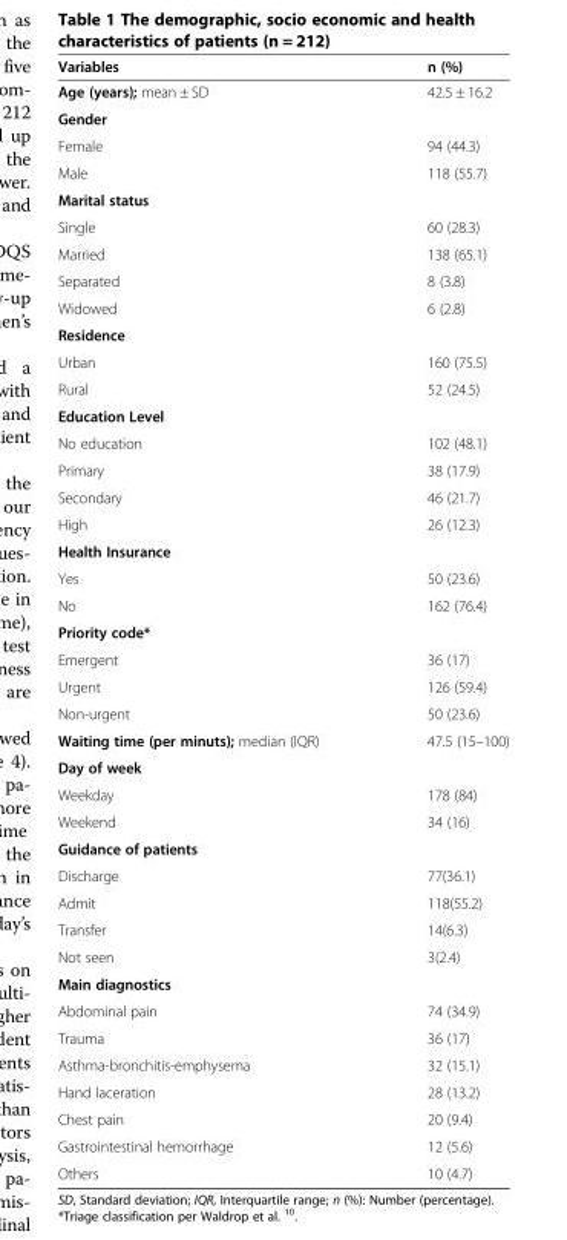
<table><thead><tr><td>Variables</td><td>n (%)</td></tr></thead><tbody><tr><td>Age (years); mean ± SD</td><td>42.5 ± 16.2</td></tr><tr><td colspan="2">Gender</td></tr><tr><td>Female</td><td>94 (44.3)</td></tr><tr><td>Male</td><td>118 (55.7)</td></tr><tr><td colspan="2">Marital status</td></tr><tr><td>Single</td><td>60 (28.3)</td></tr><tr><td>Married</td><td>138 (65.1)</td></tr><tr><td>Separated</td><td>8 (3.8)</td></tr><tr><td>Widowed</td><td>6 (2.8)</td></tr><tr><td colspan="2">Residence</td></tr><tr><td>Urban</td><td>160 (75.5)</td></tr><tr><td>Rural</td><td>52 (24.5)</td></tr><tr><td colspan="2">Education Level</td></tr><tr><td>No education</td><td>102 (48.1)</td></tr><tr><td>Primary</td><td>38 (17.9)</td></tr><tr><td>Secondary</td><td>46 (21.7)</td></tr><tr><td>High</td><td>26 (12.3)</td></tr><tr><td colspan="2">Health Insurance</td></tr><tr><td>Yes</td><td>50 (23.6)</td></tr><tr><td>No</td><td>162 (76.4)</td></tr><tr><td colspan="2">Priority code*</td></tr><tr><td>Emergent</td><td>36 (17)</td></tr><tr><td>Urgent</td><td>126 (59.4)</td></tr><tr><td>Non-urgent</td><td>50 (23.6)</td></tr><tr><td>Waiting time (per minuts); median (IQR)</td><td>47.5 (15–100)</td></tr><tr><td colspan="2">Day of week</td></tr><tr><td>Weekday</td><td>178 (84)</td></tr><tr><td>Weekend</td><td>34 (16)</td></tr><tr><td colspan="2">Guidance of patients</td></tr><tr><td>Discharge</td><td>77(36.1)</td></tr><tr><td>Admit</td><td>118(55.2)</td></tr><tr><td>Transfer</td><td>14(6.3)</td></tr><tr><td>Not seen</td><td>3(2.4)</td></tr><tr><td colspan="2">Main diagnostics</td></tr><tr><td>Abdominal pain</td><td>74 (34.9)</td></tr><tr><td>Trauma</td><td>36 (17)</td></tr><tr><td>Asthma-bronchitis-emphysema</td><td>32 (15.1)</td></tr><tr><td>Hand laceration</td><td>28 (13.2)</td></tr><tr><td>Chest pain</td><td>20 (9.4)</td></tr><tr><td>Gastrointestinal hemorrhage</td><td>12 (5.6)</td></tr><tr><td>Others</td><td>10 (4.7)</td></tr></tbody></table>